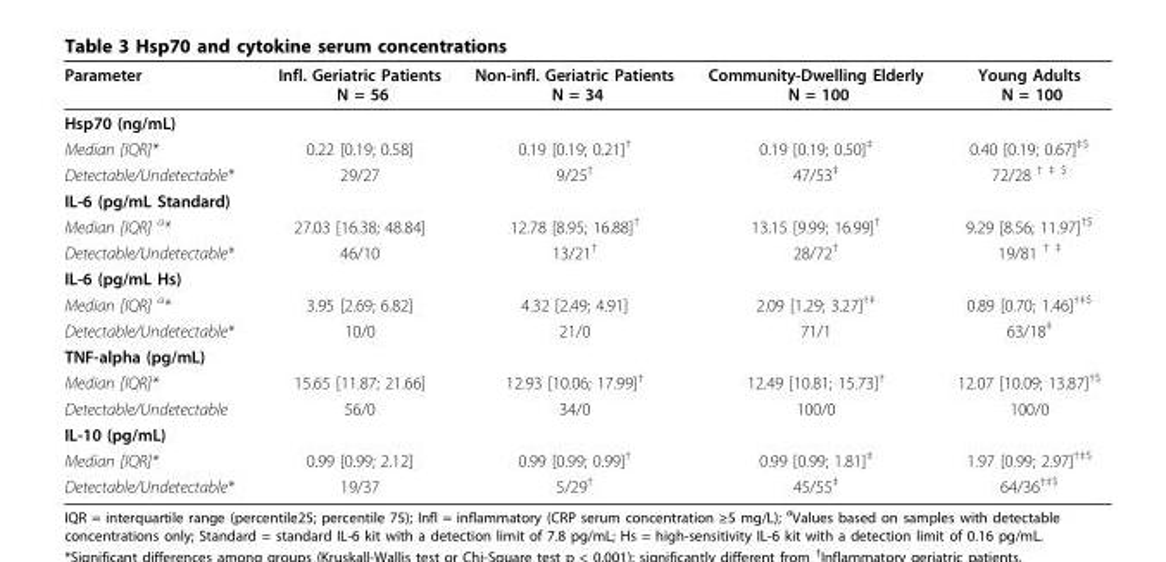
<table><thead><tr><td>Parameter</td><td>Infl. Geriatric Patients N = 56</td><td>Non-infl. Geriatric Patients N = 34</td><td>Community-Dwelling Elderly N = 100</td><td>Young Adults N = 100</td></tr></thead><tbody><tr><td colspan="5">Hsp70 (ng/mL)</td></tr><tr><td>Median [IQR]*</td><td>0.22 [0.19; 0.58]</td><td>0.19 [0.19; 0.21]<sup>†</sup></td><td>0.19 [0.19; 0.50]<sup>‡</sup></td><td>0.40 [0.19; 0.67]<sup>‡$</sup></td></tr><tr><td>Detectable/Undetectable*</td><td>29/27</td><td>9/25<sup>†</sup></td><td>47/53<sup>‡</sup></td><td>72/28 <sup>† ‡ $</sup></td></tr><tr><td colspan="5">IL-6 (pg/mL Standard)</td></tr><tr><td>Median [IQR] <sup>a</sup>*</td><td>27.03 [16.38; 48.84]</td><td>12.78 [8.95; 16.88]<sup>†</sup></td><td>13.15 [9.99; 16.99]<sup>†</sup></td><td>9.29 [8.56; 11.97]<sup>†$</sup></td></tr><tr><td>Detectable/Undetectable*</td><td>46/10</td><td>13/21<sup>†</sup></td><td>28/72<sup>†</sup></td><td>19/81 <sup>† ‡</sup></td></tr><tr><td colspan="5">IL-6 (pg/mL Hs)</td></tr><tr><td>Median [IQR] <sup>a</sup>*</td><td>3.95 [2.69; 6.82]</td><td>4.32 [2.49; 4.91]</td><td>2.09 [1.29; 3.27]<sup>†‡</sup></td><td>0.89 [0.70; 1.46]<sup>†‡$</sup></td></tr><tr><td>Detectable/Undetectable*</td><td>10/0</td><td>21/0</td><td>71/1</td><td>63/18<sup>‡</sup></td></tr><tr><td colspan="5">TNF-alpha (pg/mL)</td></tr><tr><td>Median [IQR]*</td><td>15.65 [11.87; 21.66]</td><td>12.93 [10.06; 17.99]<sup>†</sup></td><td>12.49 [10.81; 15.73]<sup>†</sup></td><td>12.07 [10.09; 13.87]<sup>†$</sup></td></tr><tr><td>Detectable/Undetectable</td><td>56/0</td><td>34/0</td><td>100/0</td><td>100/0</td></tr><tr><td colspan="5">IL-10 (pg/mL)</td></tr><tr><td>Median [IQR]*</td><td>0.99 [0.99; 2.12]</td><td>0.99 [0.99; 0.99]<sup>†</sup></td><td>0.99 [0.99; 1.81]<sup>‡</sup></td><td>1.97 [0.99; 2.97]<sup>†‡$</sup></td></tr><tr><td>Detectable/Undetectable*</td><td>19/37</td><td>5/29<sup>†</sup></td><td>45/55<sup>‡</sup></td><td>64/36<sup>†‡$</sup></td></tr></tbody></table>